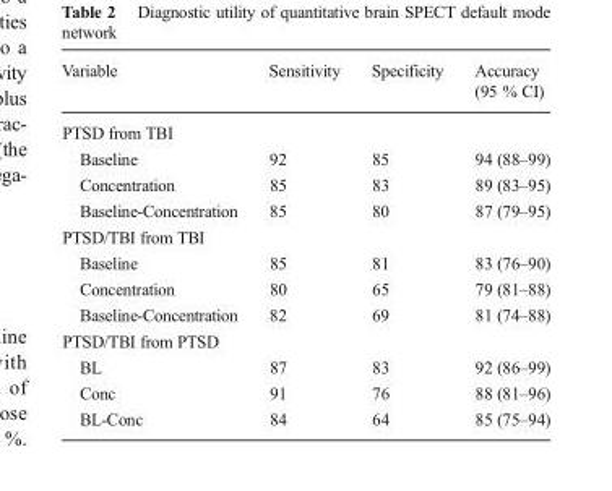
<table><thead><tr><td>Variable</td><td>Sensitivity</td><td>Specificity</td><td>Accuracy (95 % CI)</td></tr></thead><tbody><tr><td colspan="4">PTSD from TBI</td></tr><tr><td>Baseline</td><td>92</td><td>85</td><td>94 (88–99)</td></tr><tr><td>Concentration</td><td>85</td><td>83</td><td>89 (83–95)</td></tr><tr><td>Baseline-Concentration</td><td>85</td><td>80</td><td>87 (79–95)</td></tr><tr><td colspan="4">PTSD/TBI from TBI</td></tr><tr><td>Baseline</td><td>85</td><td>81</td><td>83 (76–90)</td></tr><tr><td>Concentration</td><td>80</td><td>65</td><td>79 (81–88)</td></tr><tr><td>Baseline-Concentration</td><td>82</td><td>69</td><td>81 (74–88)</td></tr><tr><td colspan="4">PTSD/TBI from PTSD</td></tr><tr><td>BL</td><td>87</td><td>83</td><td>92 (86–99)</td></tr><tr><td>Conc</td><td>91</td><td>76</td><td>88 (81–96)</td></tr><tr><td>BL-Conc</td><td>84</td><td>64</td><td>85 (75–94)</td></tr></tbody></table>